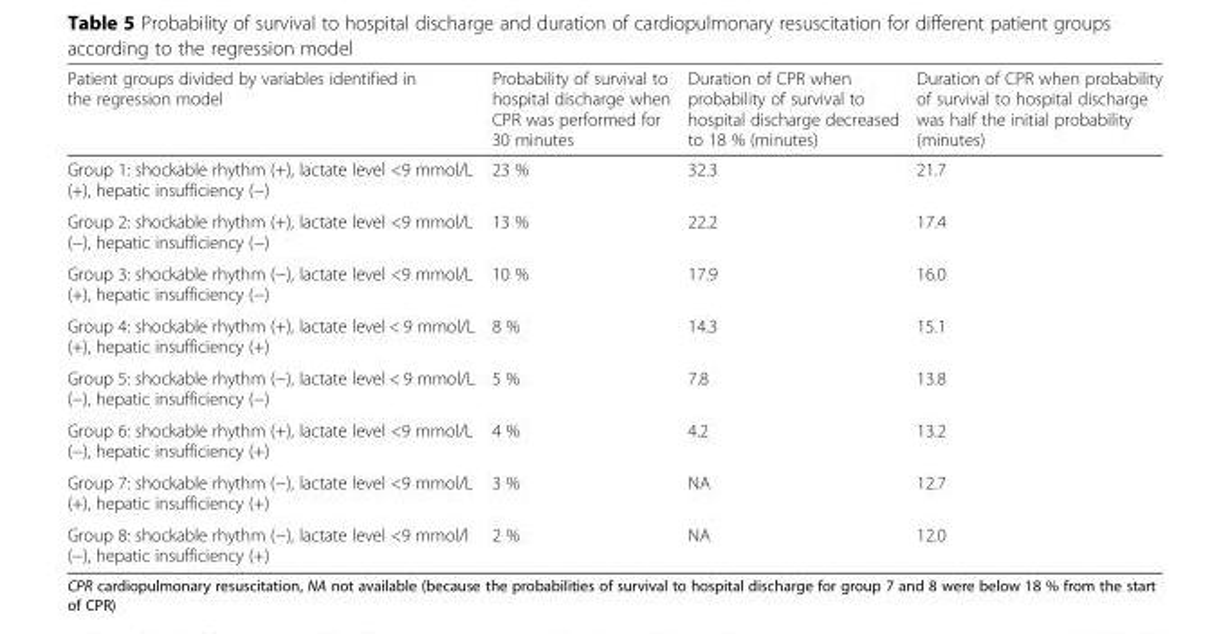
<table><thead><tr><td>Patient groups divided by variables identified in the regression model</td><td>Probability of survival to hospital discharge when CPR was performed for 30 minutes</td><td>Duration of CPR when probability of survival to hospital discharge decreased to 18 % (minutes)</td><td>Duration of CPR when probability of survival to hospital discharge was half the initial probability (minutes)</td></tr></thead><tbody><tr><td>Group 1: shockable rhythm (+), lactate level &lt;9 mmol/L (+), hepatic insufficiency (−)</td><td>23 %</td><td>32.3</td><td>21.7</td></tr><tr><td>Group 2: shockable rhythm (+), lactate level &lt;9 mmol/L (−), hepatic insufficiency (−)</td><td>13 %</td><td>22.2</td><td>17.4</td></tr><tr><td>Group 3: shockable rhythm (−), lactate level &lt;9 mmol/L (+), hepatic insufficiency (−)</td><td>10 %</td><td>17.9</td><td>16.0</td></tr><tr><td>Group 4: shockable rhythm (+), lactate level &lt; 9 mmol/L (+), hepatic insufficiency (+)</td><td>8 %</td><td>14.3</td><td>15.1</td></tr><tr><td>Group 5: shockable rhythm (−), lactate level &lt; 9 mmol/L (−), hepatic insufficiency (−)</td><td>5 %</td><td>7.8</td><td>13.8</td></tr><tr><td>Group 6: shockable rhythm (+), lactate level &lt;9 mmol/L (−), hepatic insufficiency (+)</td><td>4 %</td><td>4.2</td><td>13.2</td></tr><tr><td>Group 7: shockable rhythm (−), lactate level &lt;9 mmol/L (+), hepatic insufficiency (+)</td><td>3 %</td><td>NA</td><td>12.7</td></tr><tr><td>Group 8: shockable rhythm (−), lactate level &lt;9 mmol/l (−), hepatic insufficiency (+)</td><td>2 %</td><td>NA</td><td>12.0</td></tr></tbody></table>